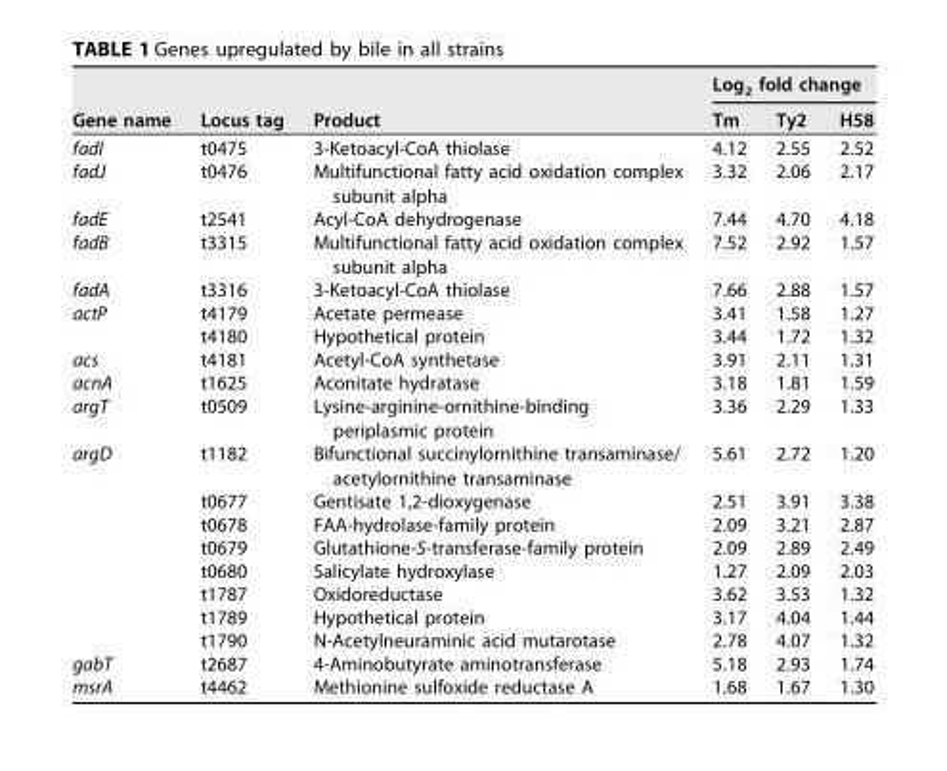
<table><thead><tr><td rowspan="2">Gene name</td><td rowspan="2">Locus tag</td><td rowspan="2">Product</td><td colspan="3">Log<sub>2</sub> fold change</td></tr><tr><td>Tm</td><td>Ty2</td><td>H58</td></tr></thead><tbody><tr><td>fadI</td><td>t0475</td><td>3-Ketoacyl-CoA thiolase</td><td>4.12</td><td>2.55</td><td>2.52</td></tr><tr><td>fadJ</td><td>t0476</td><td>Multifunctional fatty acid oxidation complex subunit alpha</td><td>3.32</td><td>2.06</td><td>2.17</td></tr><tr><td>fadE</td><td>t2541</td><td>Acyl-CoA dehydrogenase</td><td>7.44</td><td>4.70</td><td>4.18</td></tr><tr><td>fadB</td><td>t3315</td><td>Multifunctional fatty acid oxidation complex subunit alpha</td><td>7.52</td><td>2.92</td><td>1.57</td></tr><tr><td>fadA</td><td>t3316</td><td>3-Ketoacyl-CoA thiolase</td><td>7.66</td><td>2.88</td><td>1.57</td></tr><tr><td rowspan="2">actP</td><td>t4179</td><td>Acetate permease</td><td>3.41</td><td>1.58</td><td>1.27</td></tr><tr><td>t4180</td><td>Hypothetical protein</td><td>3.44</td><td>1.72</td><td>1.32</td></tr><tr><td>acs</td><td>t4181</td><td>Acetyl-CoA synthetase</td><td>3.91</td><td>2.11</td><td>1.31</td></tr><tr><td>acnA</td><td>t1625</td><td>Aconitate hydratase</td><td>3.18</td><td>1.81</td><td>1.59</td></tr><tr><td>argT</td><td>t0509</td><td>Lysine-arginine-ornithine-binding periplasmic protein</td><td>3.36</td><td>2.29</td><td>1.33</td></tr><tr><td rowspan="8">argD</td><td>t1182</td><td>Bifunctional succinylornithine transaminase/ acetylornithine transaminase</td><td>5.61</td><td>2.72</td><td>1.20</td></tr><tr><td>t0677</td><td>Gentisate 1,2-dioxygenase</td><td>2.51</td><td>3.91</td><td>3.38</td></tr><tr><td>t0678</td><td>FAA-hydrolase-family protein</td><td>2.09</td><td>3.21</td><td>2.87</td></tr><tr><td>t0679</td><td>Glutathione-S-transferase-family protein</td><td>2.09</td><td>2.89</td><td>2.49</td></tr><tr><td>t0680</td><td>Salicylate hydroxylase</td><td>1.27</td><td>2.09</td><td>2.03</td></tr><tr><td>t1787</td><td>Oxidoreductase</td><td>3.62</td><td>3.53</td><td>1.32</td></tr><tr><td>t1789</td><td>Hypothetical protein</td><td>3.17</td><td>4.04</td><td>1.44</td></tr><tr><td>t1790</td><td>N-Acetylneuraminic acid mutarotase</td><td>2.78</td><td>4.07</td><td>1.32</td></tr><tr><td>gabT</td><td>t2687</td><td>4-Aminobutyrate aminotransferase</td><td>5.18</td><td>2.93</td><td>1.74</td></tr><tr><td>msrA</td><td>t4462</td><td>Methionine sulfoxide reductase A</td><td>1.68</td><td>1.67</td><td>1.30</td></tr></tbody></table>